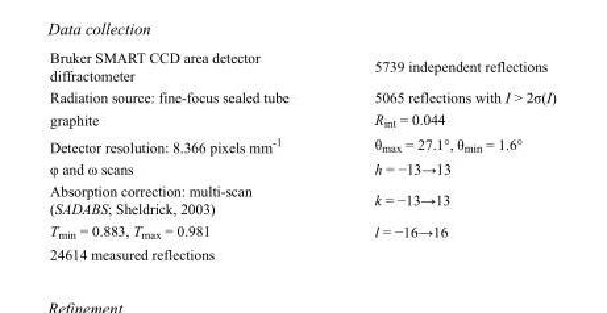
<table><tbody><tr><td>Bruker SMART CCD area detector diffractometer</td><td>5739 independent reflections</td></tr><tr><td>Radiation source: fine-focus sealed tube</td><td>5065 reflections with I &gt; 2σ(I)</td></tr><tr><td>graphite</td><td>R<sub>int</sub> = 0.044</td></tr><tr><td>Detector resolution: 8.366 pixels mm<sup>-1</sup></td><td>θ<sub>max</sub> = 27.1°, θ<sub>min</sub> = 1.6°</td></tr><tr><td>φ and ω scans</td><td>h = −13→13</td></tr><tr><td>Absorption correction: multi-scan (SADABS; Sheldrick, 2003)</td><td>k = −13→13</td></tr><tr><td>T<sub>min</sub> = 0.883, T<sub>max</sub> = 0.981</td><td>l = −16→16</td></tr><tr><td>24614 measured reflections</td><td></td></tr></tbody></table>